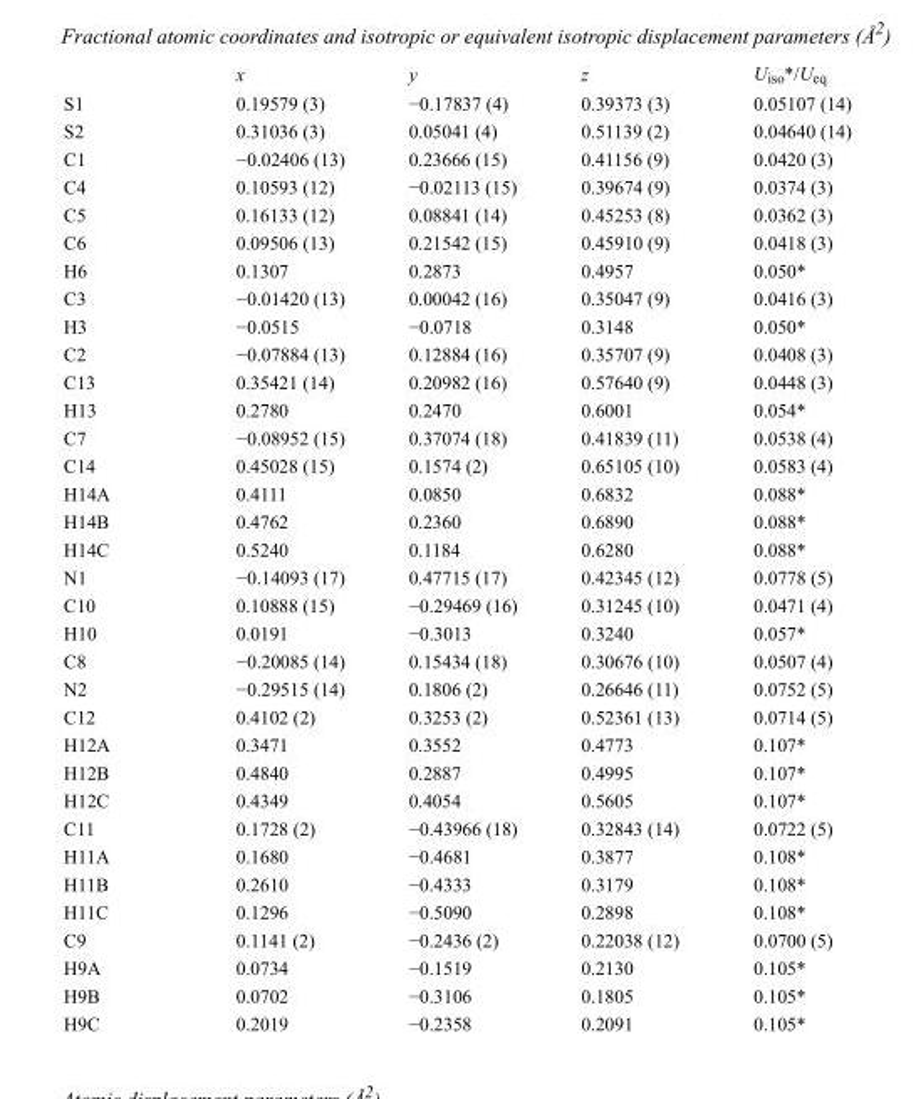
<table><thead><tr><td></td><td>x</td><td>y</td><td>z</td><td>U<sub>iso</sub>*/U<sub>eq</sub></td></tr></thead><tbody><tr><td>S1</td><td>0.19579 (3)</td><td>−0.17837 (4)</td><td>0.39373 (3)</td><td>0.05107 (14)</td></tr><tr><td>S2</td><td>0.31036 (3)</td><td>0.05041 (4)</td><td>0.51139 (2)</td><td>0.04640 (14)</td></tr><tr><td>C1</td><td>−0.02406 (13)</td><td>0.23666 (15)</td><td>0.41156 (9)</td><td>0.0420 (3)</td></tr><tr><td>C4</td><td>0.10593 (12)</td><td>−0.02113 (15)</td><td>0.39674 (9)</td><td>0.0374 (3)</td></tr><tr><td>C5</td><td>0.16133 (12)</td><td>0.08841 (14)</td><td>0.45253 (8)</td><td>0.0362 (3)</td></tr><tr><td>C6</td><td>0.09506 (13)</td><td>0.21542 (15)</td><td>0.45910 (9)</td><td>0.0418 (3)</td></tr><tr><td>H6</td><td>0.1307</td><td>0.2873</td><td>0.4957</td><td>0.050*</td></tr><tr><td>C3</td><td>−0.01420 (13)</td><td>0.00042 (16)</td><td>0.35047 (9)</td><td>0.0416 (3)</td></tr><tr><td>H3</td><td>−0.0515</td><td>−0.0718</td><td>0.3148</td><td>0.050*</td></tr><tr><td>C2</td><td>−0.07884 (13)</td><td>0.12884 (16)</td><td>0.35707 (9)</td><td>0.0408 (3)</td></tr><tr><td>C13</td><td>0.35421 (14)</td><td>0.20982 (16)</td><td>0.57640 (9)</td><td>0.0448 (3)</td></tr><tr><td>H13</td><td>0.2780</td><td>0.2470</td><td>0.6001</td><td>0.054*</td></tr><tr><td>C7</td><td>−0.08952 (15)</td><td>0.37074 (18)</td><td>0.41839 (11)</td><td>0.0538 (4)</td></tr><tr><td>C14</td><td>0.45028 (15)</td><td>0.1574 (2)</td><td>0.65105 (10)</td><td>0.0583 (4)</td></tr><tr><td>H14A</td><td>0.4111</td><td>0.0850</td><td>0.6832</td><td>0.088*</td></tr><tr><td>H14B</td><td>0.4762</td><td>0.2360</td><td>0.6890</td><td>0.088*</td></tr><tr><td>H14C</td><td>0.5240</td><td>0.1184</td><td>0.6280</td><td>0.088*</td></tr><tr><td>N1</td><td>−0.14093 (17)</td><td>0.47715 (17)</td><td>0.42345 (12)</td><td>0.0778 (5)</td></tr><tr><td>C10</td><td>0.10888 (15)</td><td>−0.29469 (16)</td><td>0.31245 (10)</td><td>0.0471 (4)</td></tr><tr><td>H10</td><td>0.0191</td><td>−0.3013</td><td>0.3240</td><td>0.057*</td></tr><tr><td>C8</td><td>−0.20085 (14)</td><td>0.15434 (18)</td><td>0.30676 (10)</td><td>0.0507 (4)</td></tr><tr><td>N2</td><td>−0.29515 (14)</td><td>0.1806 (2)</td><td>0.26646 (11)</td><td>0.0752 (5)</td></tr><tr><td>C12</td><td>0.4102 (2)</td><td>0.3253 (2)</td><td>0.52361 (13)</td><td>0.0714 (5)</td></tr><tr><td>H12A</td><td>0.3471</td><td>0.3552</td><td>0.4773</td><td>0.107*</td></tr><tr><td>H12B</td><td>0.4840</td><td>0.2887</td><td>0.4995</td><td>0.107*</td></tr><tr><td>H12C</td><td>0.4349</td><td>0.4054</td><td>0.5605</td><td>0.107*</td></tr><tr><td>C11</td><td>0.1728 (2)</td><td>−0.43966 (18)</td><td>0.32843 (14)</td><td>0.0722 (5)</td></tr><tr><td>H11A</td><td>0.1680</td><td>−0.4681</td><td>0.3877</td><td>0.108*</td></tr><tr><td>H11B</td><td>0.2610</td><td>−0.4333</td><td>0.3179</td><td>0.108*</td></tr><tr><td>H11C</td><td>0.1296</td><td>−0.5090</td><td>0.2898</td><td>0.108*</td></tr><tr><td>C9</td><td>0.1141 (2)</td><td>−0.2436 (2)</td><td>0.22038 (12)</td><td>0.0700 (5)</td></tr><tr><td>H9A</td><td>0.0734</td><td>−0.1519</td><td>0.2130</td><td>0.105*</td></tr><tr><td>H9B</td><td>0.0702</td><td>−0.3106</td><td>0.1805</td><td>0.105*</td></tr><tr><td>H9C</td><td>0.2019</td><td>−0.2358</td><td>0.2091</td><td>0.105*</td></tr></tbody></table>